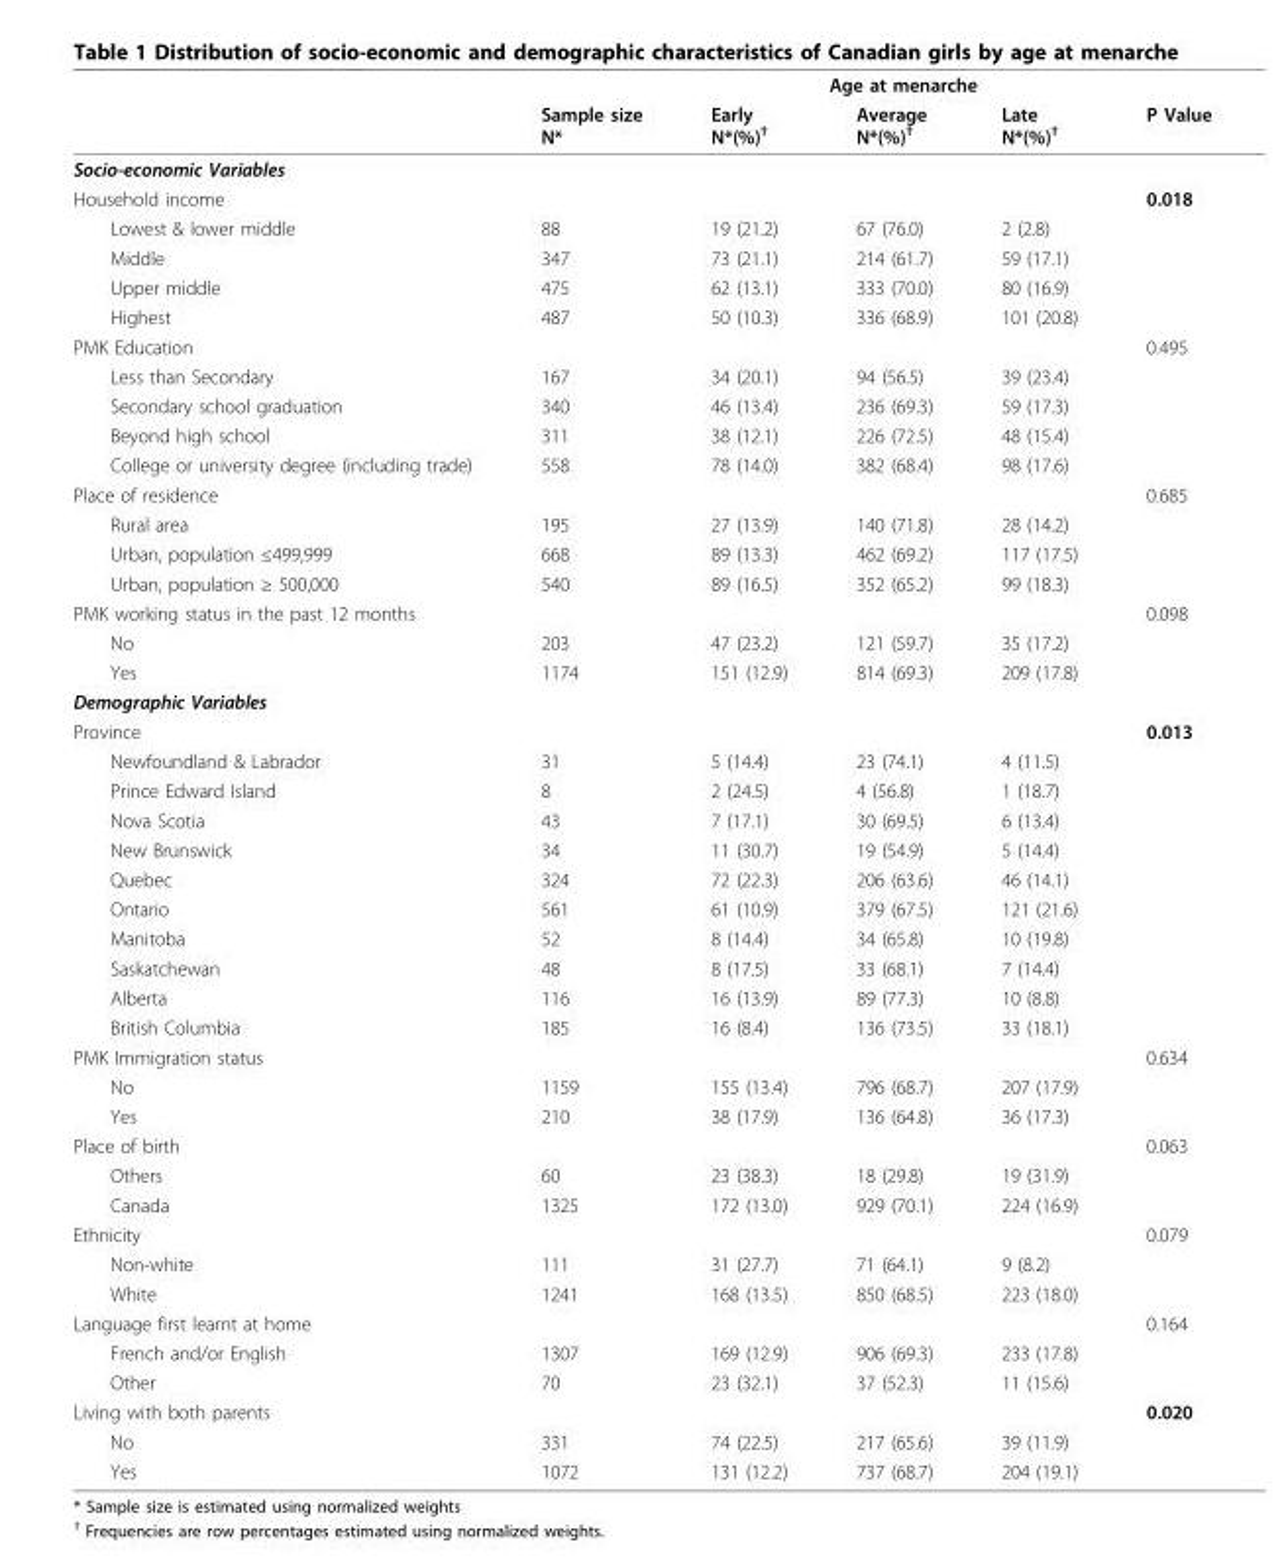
<table><thead><tr><td rowspan="2"></td><td colspan="5">Age at menarche</td></tr><tr><td>Sample size N*</td><td>Early N*(%)<sup>†</sup></td><td>Average N*(%)<sup>†</sup></td><td>Late N*(%)<sup>†</sup></td><td>P Value</td></tr></thead><tbody><tr><td colspan="6">Socio-economic Variables</td></tr><tr><td>Household income</td><td></td><td></td><td></td><td></td><td>0.018</td></tr><tr><td>Lowest &amp; lower middle</td><td>88</td><td>19 (21.2)</td><td>67 (76.0)</td><td>2 (2.8)</td><td></td></tr><tr><td>Middle</td><td>347</td><td>73 (21.1)</td><td>214 (61.7)</td><td>59 (17.1)</td><td></td></tr><tr><td>Upper middle</td><td>475</td><td>62 (13.1)</td><td>333 (70.0)</td><td>80 (16.9)</td><td></td></tr><tr><td>Highest</td><td>487</td><td>50 (10.3)</td><td>336 (68.9)</td><td>101 (20.8)</td><td></td></tr><tr><td>PMK Education</td><td></td><td></td><td></td><td></td><td>0.495</td></tr><tr><td>Less than Secondary</td><td>167</td><td>34 (20.1)</td><td>94 (56.5)</td><td>39 (23.4)</td><td></td></tr><tr><td>Secondary school graduation</td><td>340</td><td>46 (13.4)</td><td>236 (69.3)</td><td>59 (17.3)</td><td></td></tr><tr><td>Beyond high school</td><td>311</td><td>38 (12.1)</td><td>226 (72.5)</td><td>48 (15.4)</td><td></td></tr><tr><td>College or university degree (including trade)</td><td>558</td><td>78 (14.0)</td><td>382 (68.4)</td><td>98 (17.6)</td><td></td></tr><tr><td>Place of residence</td><td></td><td></td><td></td><td></td><td>0.685</td></tr><tr><td>Rural area</td><td>195</td><td>27 (13.9)</td><td>140 (71.8)</td><td>28 (14.2)</td><td></td></tr><tr><td>Urban, population ≤499,999</td><td>668</td><td>89 (13.3)</td><td>462 (69.2)</td><td>117 (17.5)</td><td></td></tr><tr><td>Urban, population ≥ 500,000</td><td>540</td><td>89 (16.5)</td><td>352 (65.2)</td><td>99 (18.3)</td><td></td></tr><tr><td>PMK working status in the past 12 months</td><td></td><td></td><td></td><td></td><td>0.098</td></tr><tr><td>No</td><td>203</td><td>47 (23.2)</td><td>121 (59.7)</td><td>35 (17.2)</td><td></td></tr><tr><td>Yes</td><td>1174</td><td>151 (12.9)</td><td>814 (69.3)</td><td>209 (17.8)</td><td></td></tr><tr><td colspan="6">Demographic Variables</td></tr><tr><td>Province</td><td></td><td></td><td></td><td></td><td>0.013</td></tr><tr><td>Newfoundland &amp; Labrador</td><td>31</td><td>5 (14.4)</td><td>23 (74.1)</td><td>4 (11.5)</td><td></td></tr><tr><td>Prince Edward Island</td><td>8</td><td>2 (24.5)</td><td>4 (56.8)</td><td>1 (18.7)</td><td></td></tr><tr><td>Nova Scotia</td><td>43</td><td>7 (17.1)</td><td>30 (69.5)</td><td>6 (13.4)</td><td></td></tr><tr><td>New Brunswick</td><td>34</td><td>11 (30.7)</td><td>19 (54.9)</td><td>5 (14.4)</td><td></td></tr><tr><td>Quebec</td><td>324</td><td>72 (22.3)</td><td>206 (63.6)</td><td>46 (14.1)</td><td></td></tr><tr><td>Ontario</td><td>561</td><td>61 (10.9)</td><td>379 (67.5)</td><td>121 (21.6)</td><td></td></tr><tr><td>Manitoba</td><td>52</td><td>8 (14.4)</td><td>34 (65.8)</td><td>10 (19.8)</td><td></td></tr><tr><td>Saskatchewan</td><td>48</td><td>8 (17.5)</td><td>33 (68.1)</td><td>7 (14.4)</td><td></td></tr><tr><td>Alberta</td><td>116</td><td>16 (13.9)</td><td>89 (77.3)</td><td>10 (8.8)</td><td></td></tr><tr><td>British Columbia</td><td>185</td><td>16 (8.4)</td><td>136 (73.5)</td><td>33 (18.1)</td><td></td></tr><tr><td>PMK Immigration status</td><td></td><td></td><td></td><td></td><td>0.634</td></tr><tr><td>No</td><td>1159</td><td>155 (13.4)</td><td>796 (68.7)</td><td>207 (17.9)</td><td></td></tr><tr><td>Yes</td><td>210</td><td>38 (17.9)</td><td>136 (64.8)</td><td>36 (17.3)</td><td></td></tr><tr><td>Place of birth</td><td></td><td></td><td></td><td></td><td>0.063</td></tr><tr><td>Others</td><td>60</td><td>23 (38.3)</td><td>18 (29.8)</td><td>19 (31.9)</td><td></td></tr><tr><td>Canada</td><td>1325</td><td>172 (13.0)</td><td>929 (70.1)</td><td>224 (16.9)</td><td></td></tr><tr><td>Ethnicity</td><td></td><td></td><td></td><td></td><td>0.079</td></tr><tr><td>Non-white</td><td>111</td><td>31 (27.7)</td><td>71 (64.1)</td><td>9 (8.2)</td><td></td></tr><tr><td>White</td><td>1241</td><td>168 (13.5)</td><td>850 (68.5)</td><td>223 (18.0)</td><td></td></tr><tr><td>Language first learnt at home</td><td></td><td></td><td></td><td></td><td>0.164</td></tr><tr><td>French and/or English</td><td>1307</td><td>169 (12.9)</td><td>906 (69.3)</td><td>233 (17.8)</td><td></td></tr><tr><td>Other</td><td>70</td><td>23 (32.1)</td><td>37 (52.3)</td><td>11 (15.6)</td><td></td></tr><tr><td>Living with both parents</td><td></td><td></td><td></td><td></td><td>0.020</td></tr><tr><td>No</td><td>331</td><td>74 (22.5)</td><td>217 (65.6)</td><td>39 (11.9)</td><td></td></tr><tr><td>Yes</td><td>1072</td><td>131 (12.2)</td><td>737 (68.7)</td><td>204 (19.1)</td><td></td></tr></tbody></table>